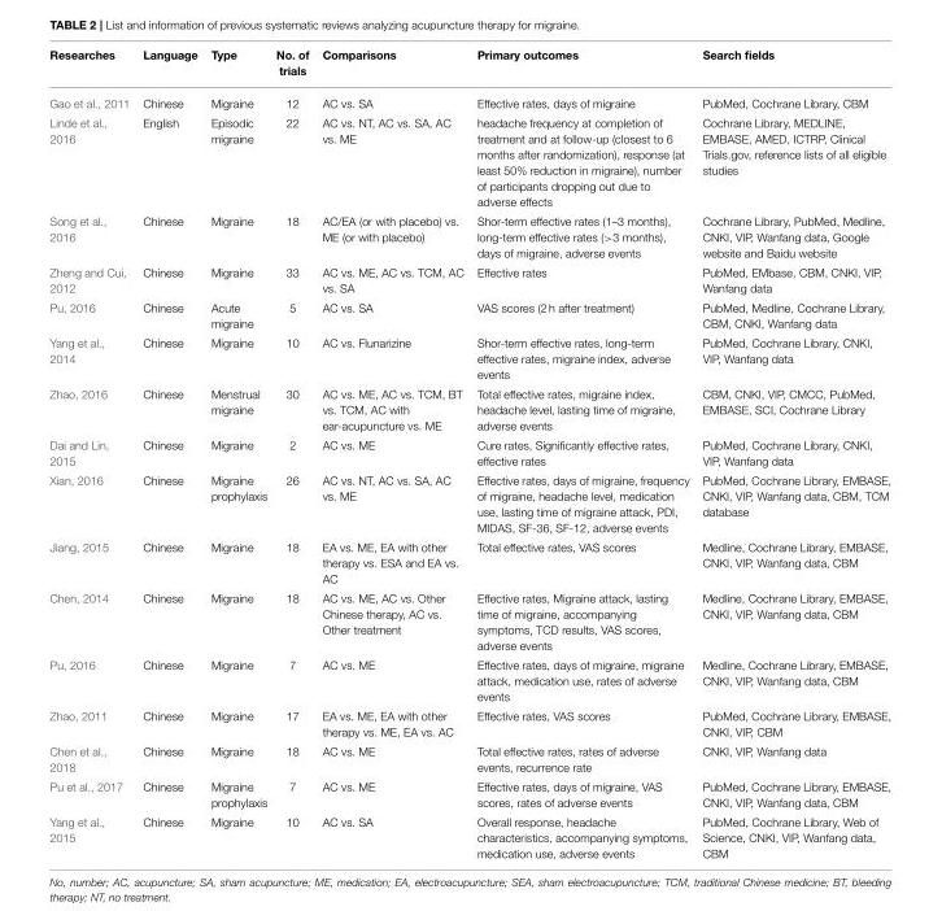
<table><thead><tr><td>Researches</td><td>Language</td><td>Type</td><td>No. of trials</td><td>Comparisons</td><td>Primary outcomes</td><td>Search fields</td></tr></thead><tbody><tr><td>Gao et al., 2011</td><td>Chinese</td><td>Migraine</td><td>12</td><td>AC vs. SA</td><td>Effective rates, days of migraine</td><td>PubMed, Cochrane Library, CBM</td></tr><tr><td>Linde et al., 2016</td><td>English</td><td>Episodic migraine</td><td>22</td><td>AC vs. NT, AC vs. SA, AC vs. ME</td><td>headache frequency at completion of treatment and at follow-up (closest to 6 months after randomization), response (at least 50% reduction in migraine), number of participants dropping out due to adverse effects</td><td>Cochrane Library, MEDLINE, EMBASE, AMED, ICTRP, Clinical Trials.gov, reference lists of all eligible studies</td></tr><tr><td>Song et al., 2016</td><td>Chinese</td><td>Migraine</td><td>18</td><td>AC/EA (or with placebo) vs. ME (or with placebo)</td><td>Shor-term effective rates (1–3 months), long-term effective rates (&gt;3 months), days of migraine, adverse events</td><td>Cochrane Library, PubMed, Medline, CNKI, VIP, Wanfang data, Google website and Baidu website</td></tr><tr><td>Zheng and Cui, 2012</td><td>Chinese</td><td>Migraine</td><td>33</td><td>AC vs. ME, AC vs. TCM, AC vs. SA</td><td>Effective rates</td><td>PubMed, EMbase, CBM, CNKI, VIP, Wanfang data</td></tr><tr><td>Pu, 2016</td><td>Chinese</td><td>Acute migraine</td><td>5</td><td>AC vs. SA</td><td>VAS scores (2 h after treatment)</td><td>PubMed, Medline, Cochrane Library, CBM, CNKI, Wanfang data</td></tr><tr><td>Yang et al., 2014</td><td>Chinese</td><td>Migraine</td><td>10</td><td>AC vs. Flunarizine</td><td>Shor-term effective rates, long-term effective rates, migraine index, adverse events</td><td>PubMed, Cochrane Library, CNKI, VIP, Wanfang data</td></tr><tr><td>Zhao, 2016</td><td>Chinese</td><td>Menstrual migraine</td><td>30</td><td>AC vs. ME, AC vs. TCM, BT vs. TCM, AC with ear-acupuncture vs. ME</td><td>Total effective rates, migraine index, headache level, lasting time of migraine, adverse events</td><td>CBM, CNKI, VIP, CMCC, PubMed, EMBASE, SCI, Cochrane Library</td></tr><tr><td>Dai and Lin, 2015</td><td>Chinese</td><td>Migraine</td><td>2</td><td>AC vs. ME</td><td>Cure rates, Significantly effective rates, effective rates</td><td>PubMed, Cochrane Library, CNKI, VIP, Wanfang data</td></tr><tr><td>Xian, 2016</td><td>Chinese</td><td>Migraine prophylaxis</td><td>26</td><td>AC vs. NT, AC vs. SA, AC vs. ME</td><td>Effective rates, days of migraine, frequency of migraine, headache level, medication use, lasting time of migraine attack, PDI, MIDAS, SF-36, SF-12, adverse events</td><td>PubMed, Cochrane Library, EMBASE, CNKI, VIP, Wanfang data, CBM, TCM database</td></tr><tr><td>Jiang, 2015</td><td>Chinese</td><td>Migraine</td><td>18</td><td>EA vs. ME, EA with other therapy vs. ESA and EA vs. AC</td><td>Total effective rates, VAS scores</td><td>Medline, Cochrane Library, EMBASE, CNKI, VIP, Wanfang data, CBM</td></tr><tr><td>Chen, 2014</td><td>Chinese</td><td>Migraine</td><td>18</td><td>AC vs. ME, AC vs. Other Chinese therapy, AC vs. Other treatment</td><td>Effective rates, Migraine attack, lasting time of migraine, accompanying symptoms, TCD results, VAS scores, adverse events</td><td>Medline, Cochrane Library, EMBASE, CNKI, VIP, Wanfang data, CBM</td></tr><tr><td>Pu, 2016</td><td>Chinese</td><td>Migraine</td><td>7</td><td>AC vs. ME</td><td>Effective rates, days of migraine, migraine attack, medication use, rates of adverse events</td><td>Medline, Cochrane Library, EMBASE, CNKI, VIP, Wanfang data, CBM</td></tr><tr><td>Zhao, 2011</td><td>Chinese</td><td>Migraine</td><td>17</td><td>EA vs. ME, EA with other therapy vs. ME, EA vs. AC</td><td>Effective rates, VAS scores</td><td>PubMed, Cochrane Library, EMBASE, CNKI, VIP, CBM</td></tr><tr><td>Chen et al., 2018</td><td>Chinese</td><td>Migraine</td><td>18</td><td>AC vs. ME</td><td>Total effective rates, rates of adverse events, recurrence rate</td><td>CNKI, VIP, Wanfang data</td></tr><tr><td>Pu et al., 2017</td><td>Chinese</td><td>Migraine prophylaxis</td><td>7</td><td>AC vs. ME</td><td>Effective rates, days of migraine, VAS scores, rates of adverse events</td><td>PubMed, Cochrane Library, EMBASE, CNKI, VIP, Wanfang data, CBM</td></tr><tr><td>Yang et al., 2015</td><td>Chinese</td><td>Migraine</td><td>10</td><td>AC vs. SA</td><td>Overall response, headache characteristics, accompanying symptoms, medication use, adverse events</td><td>PubMed, Cochrane Library, Web of Science, CNKI, VIP, Wanfang data, CBM</td></tr></tbody></table>